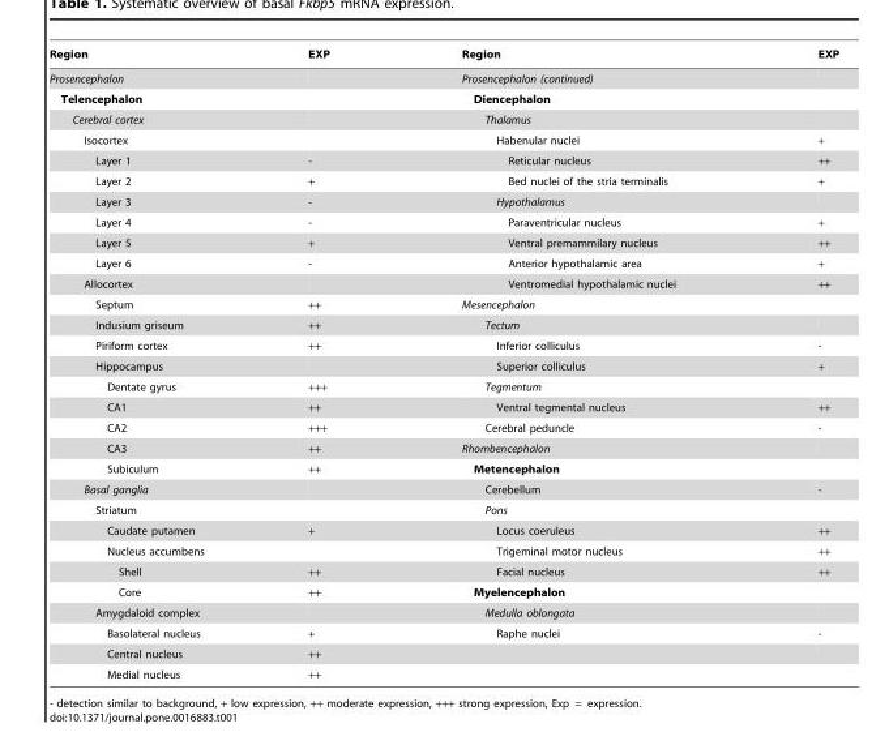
<table><thead><tr><td>Region</td><td>EXP</td><td>Region</td><td>EXP</td></tr></thead><tbody><tr><td>Prosencephalon</td><td></td><td>Prosencephalon (continued)</td><td></td></tr><tr><td>Telencephalon</td><td></td><td>Diencephalon</td><td></td></tr><tr><td>Cerebral cortex</td><td></td><td>Thalamus</td><td></td></tr><tr><td>Isocortex</td><td></td><td>Habenular nuclei</td><td>+</td></tr><tr><td>Layer 1</td><td>-</td><td>Reticular nucleus</td><td>++</td></tr><tr><td>Layer 2</td><td>+</td><td>Bed nuclei of the stria terminalis</td><td>+</td></tr><tr><td>Layer 3</td><td>-</td><td>Hypothalamus</td><td></td></tr><tr><td>Layer 4</td><td>-</td><td>Paraventricular nucleus</td><td>+</td></tr><tr><td>Layer 5</td><td>+</td><td>Ventral premammilary nucleus</td><td>++</td></tr><tr><td>Layer 6</td><td>-</td><td>Anterior hypothalamic area</td><td>+</td></tr><tr><td>Allocortex</td><td></td><td>Ventromedial hypothalamic nuclei</td><td>++</td></tr><tr><td>Septum</td><td>++</td><td>Mesencephalon</td><td></td></tr><tr><td>Indusium griseum</td><td>++</td><td>Tectum</td><td></td></tr><tr><td>Piriform cortex</td><td>++</td><td>Inferior colliculus</td><td>-</td></tr><tr><td>Hippocampus</td><td></td><td>Superior colliculus</td><td>+</td></tr><tr><td>Dentate gyrus</td><td>+++</td><td>Tegmentum</td><td></td></tr><tr><td>CA1</td><td>++</td><td>Ventral tegmental nucleus</td><td>++</td></tr><tr><td>CA2</td><td>+++</td><td>Cerebral peduncle</td><td>-</td></tr><tr><td>CA3</td><td>++</td><td>Rhombencephalon</td><td></td></tr><tr><td>Subiculum</td><td>++</td><td>Metencephalon</td><td></td></tr><tr><td>Basal ganglia</td><td></td><td>Cerebellum</td><td>-</td></tr><tr><td>Striatum</td><td></td><td>Pons</td><td></td></tr><tr><td>Caudate putamen</td><td>+</td><td>Locus coeruleus</td><td>++</td></tr><tr><td>Nucleus accumbens</td><td></td><td>Trigeminal motor nucleus</td><td>++</td></tr><tr><td>Shell</td><td>++</td><td>Facial nucleus</td><td>++</td></tr><tr><td>Core</td><td>++</td><td>Myelencephalon</td><td></td></tr><tr><td>Amygdaloid complex</td><td></td><td>Medulla oblongata</td><td></td></tr><tr><td>Basolateral nucleus</td><td>+</td><td>Raphe nuclei</td><td>-</td></tr><tr><td>Central nucleus</td><td>++</td><td></td><td></td></tr><tr><td>Medial nucleus</td><td>++</td><td></td><td></td></tr></tbody></table>